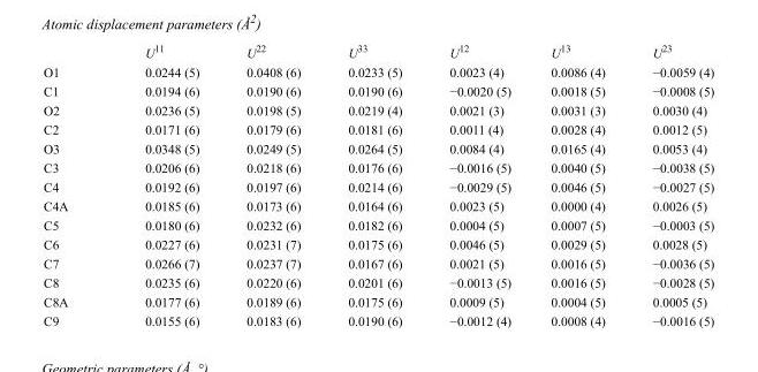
<table><thead><tr><td></td><td>U<sup>11</sup></td><td>U<sup>22</sup></td><td>U<sup>33</sup></td><td>U<sup>12</sup></td><td>U<sup>13</sup></td><td>U<sup>23</sup></td></tr></thead><tbody><tr><td>O1</td><td>0.0244 (5)</td><td>0.0408 (6)</td><td>0.0233 (5)</td><td>0.0023 (4)</td><td>0.0086 (4)</td><td>−0.0059 (4)</td></tr><tr><td>C1</td><td>0.0194 (6)</td><td>0.0190 (6)</td><td>0.0190 (6)</td><td>−0.0020 (5)</td><td>0.0018 (5)</td><td>−0.0008 (5)</td></tr><tr><td>O2</td><td>0.0236 (5)</td><td>0.0198 (5)</td><td>0.0219 (4)</td><td>0.0021 (3)</td><td>0.0031 (3)</td><td>0.0030 (4)</td></tr><tr><td>C2</td><td>0.0171 (6)</td><td>0.0179 (6)</td><td>0.0181 (6)</td><td>0.0011 (4)</td><td>0.0028 (4)</td><td>0.0012 (5)</td></tr><tr><td>O3</td><td>0.0348 (5)</td><td>0.0249 (5)</td><td>0.0264 (5)</td><td>0.0084 (4)</td><td>0.0165 (4)</td><td>0.0053 (4)</td></tr><tr><td>C3</td><td>0.0206 (6)</td><td>0.0218 (6)</td><td>0.0176 (6)</td><td>−0.0016 (5)</td><td>0.0040 (5)</td><td>−0.0038 (5)</td></tr><tr><td>C4</td><td>0.0192 (6)</td><td>0.0197 (6)</td><td>0.0214 (6)</td><td>−0.0029 (5)</td><td>0.0046 (5)</td><td>−0.0027 (5)</td></tr><tr><td>C4A</td><td>0.0185 (6)</td><td>0.0173 (6)</td><td>0.0164 (6)</td><td>0.0023 (5)</td><td>0.0000 (4)</td><td>0.0026 (5)</td></tr><tr><td>C5</td><td>0.0180 (6)</td><td>0.0232 (6)</td><td>0.0182 (6)</td><td>0.0004 (5)</td><td>0.0007 (5)</td><td>−0.0003 (5)</td></tr><tr><td>C6</td><td>0.0227 (6)</td><td>0.0231 (7)</td><td>0.0175 (6)</td><td>0.0046 (5)</td><td>0.0029 (5)</td><td>0.0028 (5)</td></tr><tr><td>C7</td><td>0.0266 (7)</td><td>0.0237 (7)</td><td>0.0167 (6)</td><td>0.0021 (5)</td><td>0.0016 (5)</td><td>−0.0036 (5)</td></tr><tr><td>C8</td><td>0.0235 (6)</td><td>0.0220 (6)</td><td>0.0201 (6)</td><td>−0.0013 (5)</td><td>0.0016 (5)</td><td>−0.0028 (5)</td></tr><tr><td>C8A</td><td>0.0177 (6)</td><td>0.0189 (6)</td><td>0.0175 (6)</td><td>0.0009 (5)</td><td>0.0004 (5)</td><td>0.0005 (5)</td></tr><tr><td>C9</td><td>0.0155 (6)</td><td>0.0183 (6)</td><td>0.0190 (6)</td><td>−0.0012 (4)</td><td>0.0008 (4)</td><td>−0.0016 (5)</td></tr></tbody></table>